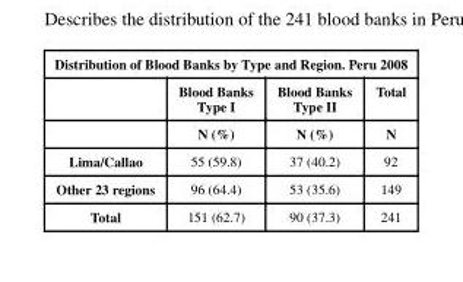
<table><thead><tr><td colspan="4">Distribution of Blood Banks by Type and Region. Peru 2008</td></tr><tr><td rowspan="2"></td><td rowspan="2">Blood Banks Type I N (%)</td><td rowspan="2">Blood Banks Type II N (%)</td><td rowspan="2">Total N</td></tr><tr></tr></thead><tbody><tr><td>Lima/Callao</td><td>55 (59.8)</td><td>37 (40.2)</td><td>92</td></tr><tr><td>Other 23 regions</td><td>96 (64.4)</td><td>53 (35.6)</td><td>149</td></tr><tr><td>Total</td><td>151 (62.7)</td><td>90 (37.3)</td><td>241</td></tr></tbody></table>